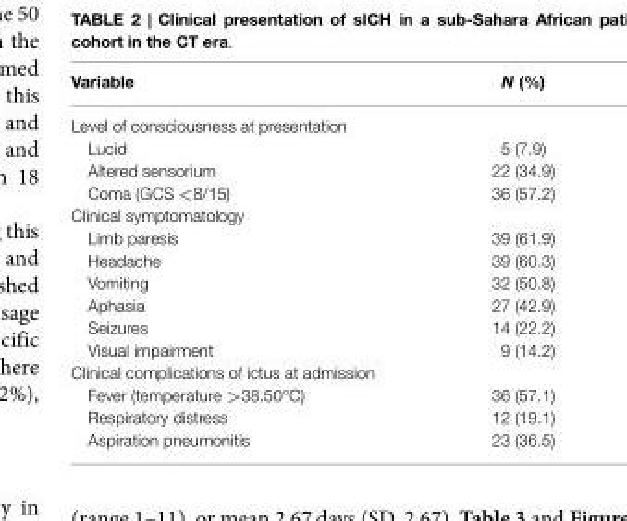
<table><thead><tr><td>Variable</td><td>N (%)</td></tr></thead><tbody><tr><td colspan="2">Level of consciousness at presentation</td></tr><tr><td>Lucid</td><td>5 (7.9)</td></tr><tr><td>Altered sensorium</td><td>22 (34.9)</td></tr><tr><td>Coma (GCS &lt;8/15)</td><td>36 (57.2)</td></tr><tr><td colspan="2">Clinical symptomatology</td></tr><tr><td>Limb paresis</td><td>39 (61.9)</td></tr><tr><td>Headache</td><td>39 (60.3)</td></tr><tr><td>Vomiting</td><td>32 (50.8)</td></tr><tr><td>Aphasia</td><td>27 (42.9)</td></tr><tr><td>Seizures</td><td>14 (22.2)</td></tr><tr><td>Visual impairment</td><td>9 (14.2)</td></tr><tr><td colspan="2">Clinical complications of ictus at admission</td></tr><tr><td>Fever (temperature &gt;38.50°C)</td><td>36 (57.1)</td></tr><tr><td>Respiratory distress</td><td>12 (19.1)</td></tr><tr><td>Aspiration pneumonitis</td><td>23 (36.5)</td></tr></tbody></table>